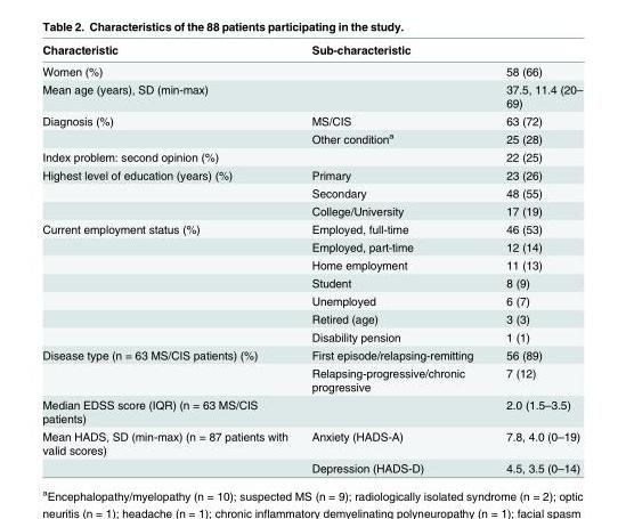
<table><thead><tr><td>Characteristic</td><td>Sub-characteristic</td><td></td></tr></thead><tbody><tr><td>Women (%)</td><td></td><td>58 (66)</td></tr><tr><td>Mean age (years), SD (min-max)</td><td></td><td>37.5, 11.4 (20– 69)</td></tr><tr><td rowspan="2">Diagnosis (%)</td><td>MS/CIS</td><td>63 (72)</td></tr><tr><td>Other condition<sup>a</sup></td><td>25 (28)</td></tr><tr><td>Index problem: second opinion (%)</td><td></td><td>22 (25)</td></tr><tr><td rowspan="3">Highest level of education (years) (%)</td><td>Primary</td><td>23 (26)</td></tr><tr><td>Secondary</td><td>48 (55)</td></tr><tr><td>College/University</td><td>17 (19)</td></tr><tr><td rowspan="7">Current employment status (%)</td><td>Employed, full-time</td><td>46 (53)</td></tr><tr><td>Employed, part-time</td><td>12 (14)</td></tr><tr><td>Home employment</td><td>11 (13)</td></tr><tr><td>Student</td><td>8 (9)</td></tr><tr><td>Unemployed</td><td>6 (7)</td></tr><tr><td>Retired (age)</td><td>3 (3)</td></tr><tr><td>Disability pension</td><td>1 (1)</td></tr><tr><td rowspan="2">Disease type (n = 63 MS/CIS patients) (%)</td><td>First episode/relapsing-remitting</td><td>56 (89)</td></tr><tr><td>Relapsing-progressive/chronic progressive</td><td>7 (12)</td></tr><tr><td>Median EDSS score (IQR) (n = 63 MS/CIS patients)</td><td></td><td>2.0 (1.5–3.5)</td></tr><tr><td rowspan="2">Mean HADS, SD (min-max) (n = 87 patients with valid scores)</td><td>Anxiety (HADS-A)</td><td>7.8, 4.0 (0–19)</td></tr><tr><td>Depression (HADS-D)</td><td>4.5, 3.5 (0–14)</td></tr></tbody></table>